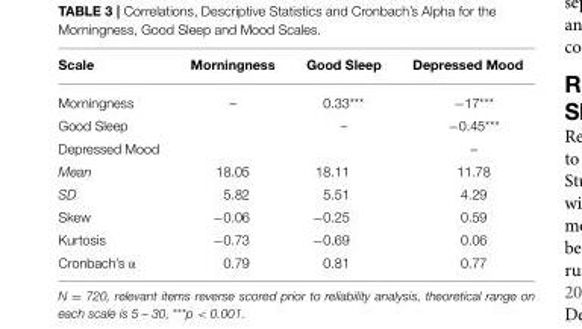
<table><thead><tr><td>Scale</td><td>Morningness</td><td>Good Sleep</td><td>Depressed Mood</td></tr></thead><tbody><tr><td>Morningness</td><td>–</td><td>0.33***</td><td>−17***</td></tr><tr><td>Good Sleep</td><td></td><td>–</td><td>−0.45***</td></tr><tr><td>Depressed Mood</td><td></td><td></td><td>–</td></tr><tr><td>Mean</td><td>18.05</td><td>18.11</td><td>11.78</td></tr><tr><td>SD</td><td>5.82</td><td>5.51</td><td>4.29</td></tr><tr><td>Skew</td><td>−0.06</td><td>−0.25</td><td>0.59</td></tr><tr><td>Kurtosis</td><td>−0.73</td><td>−0.69</td><td>0.06</td></tr><tr><td>Cronbach’s α</td><td>0.79</td><td>0.81</td><td>0.77</td></tr></tbody></table>